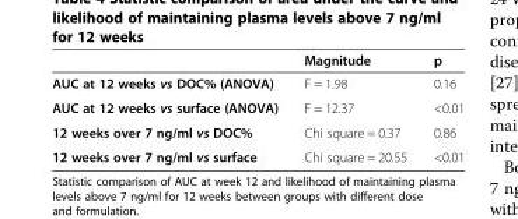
<table><thead><tr><td></td><td>Magnitude</td><td>p</td></tr></thead><tbody><tr><td>AUC at 12 weeks vs DOC% (ANOVA)</td><td>F = 1.98</td><td>0.16</td></tr><tr><td>AUC at 12 weeks vs surface (ANOVA)</td><td>F = 12.37</td><td>&lt;0.01</td></tr><tr><td>12 weeks over 7 ng/ml vs DOC%</td><td>Chi square = 0.37</td><td>0.86</td></tr><tr><td>12 weeks over 7 ng/ml vs surface</td><td>Chi square = 20.55</td><td>&lt;0.01</td></tr></tbody></table>